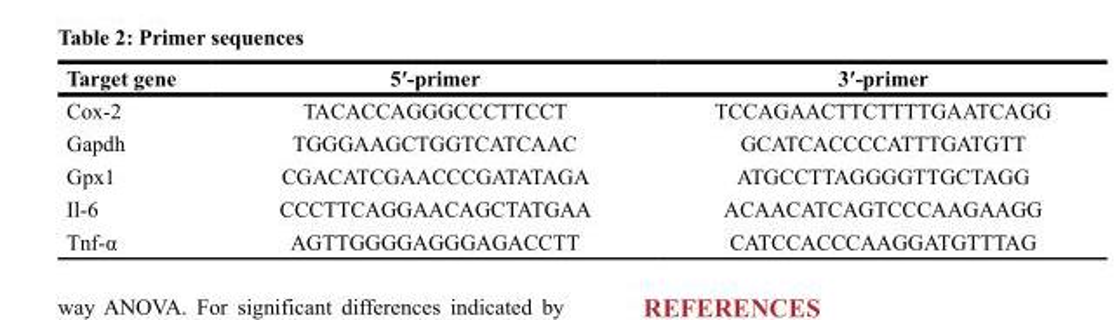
<table><thead><tr><td>Target gene</td><td>5′-primer</td><td>3′-primer</td></tr></thead><tbody><tr><td>Cox-2</td><td>TACACCAGGGCCCTTCCT</td><td>TCCAGAACTTCTTTTGAATCAGG</td></tr><tr><td>Gapdh</td><td>TGGGAAGCTGGTCATCAAC</td><td>GCATCACCCCATTTGATGTT</td></tr><tr><td>Gpx1</td><td>CGACATCGAACCCGATATAGA</td><td>ATGCCTTAGGGGTTGCTAGG</td></tr><tr><td>Il-6</td><td>CCCTTCAGGAACAGCTATGAA</td><td>ACAACATCAGTCCCAAGAAGG</td></tr><tr><td>Tnf-α</td><td>AGTTGGGGAGGGAGACCTT</td><td>CATCCACCCAAGGATGTTTAG</td></tr></tbody></table>